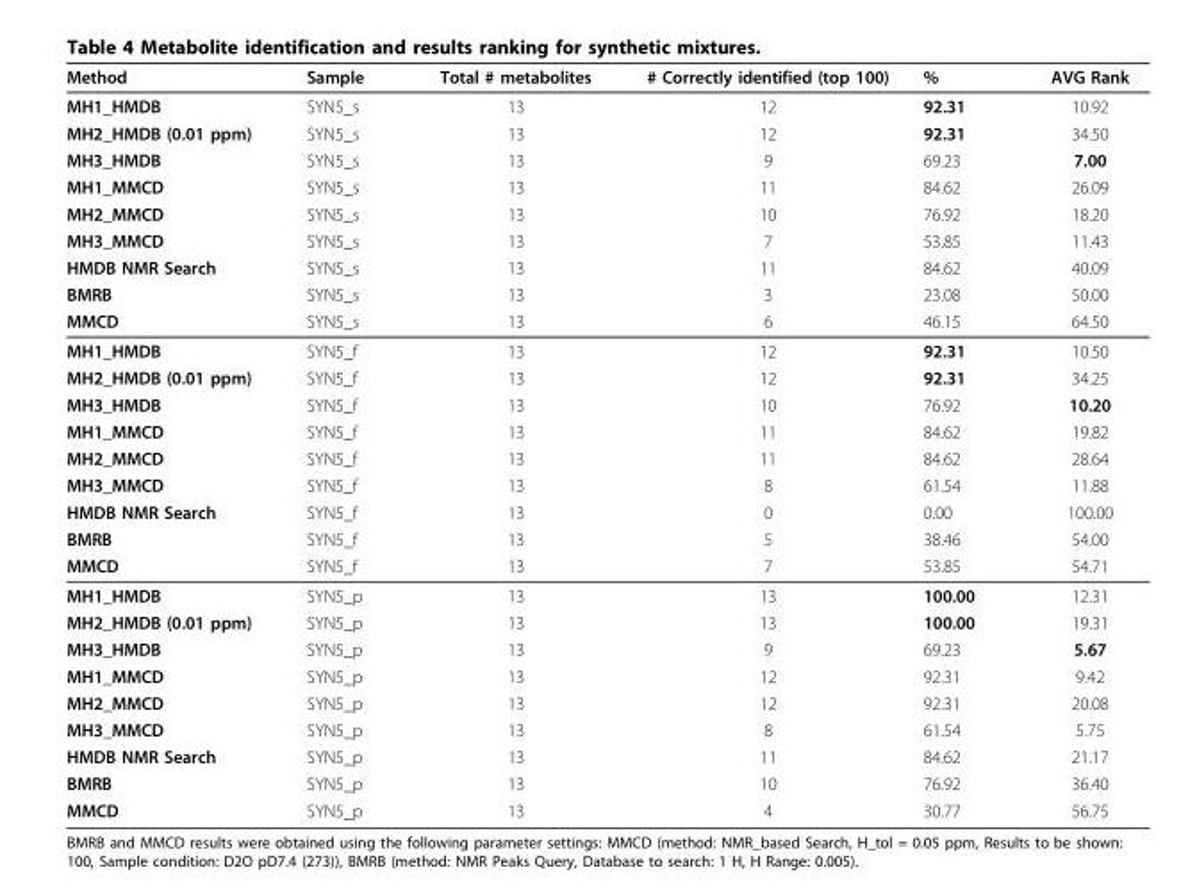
<table><thead><tr><td>Method</td><td>Sample</td><td>Total # metabolites</td><td># Correctly identified (top 100)</td><td>%</td><td>AVG Rank</td></tr></thead><tbody><tr><td>MH1_HMDB</td><td>SYN5_s</td><td>13</td><td>12</td><td>92.31</td><td>10.92</td></tr><tr><td>MH2_HMDB (0.01 ppm)</td><td>SYN5_s</td><td>13</td><td>12</td><td>92.31</td><td>34.50</td></tr><tr><td>MH3_HMDB</td><td>SYN5_s</td><td>13</td><td>9</td><td>69.23</td><td>7.00</td></tr><tr><td>MH1_MMCD</td><td>SYN5_s</td><td>13</td><td>11</td><td>84.62</td><td>26.09</td></tr><tr><td>MH2_MMCD</td><td>SYN5_s</td><td>13</td><td>10</td><td>76.92</td><td>18.20</td></tr><tr><td>MH3_MMCD</td><td>SYN5_s</td><td>13</td><td>7</td><td>53.85</td><td>11.43</td></tr><tr><td>HMDB NMR Search</td><td>SYN5_s</td><td>13</td><td>11</td><td>84.62</td><td>40.09</td></tr><tr><td>BMRB</td><td>SYN5_s</td><td>13</td><td>3</td><td>23.08</td><td>50.00</td></tr><tr><td>MMCD</td><td>SYN5_s</td><td>13</td><td>6</td><td>46.15</td><td>64.50</td></tr><tr><td>MH1_HMDB</td><td>SYN5_f</td><td>13</td><td>12</td><td>92.31</td><td>10.50</td></tr><tr><td>MH2_HMDB (0.01 ppm)</td><td>SYN5_f</td><td>13</td><td>12</td><td>92.31</td><td>34.25</td></tr><tr><td>MH3_HMDB</td><td>SYN5_f</td><td>13</td><td>10</td><td>76.92</td><td>10.20</td></tr><tr><td>MH1_MMCD</td><td>SYN5_f</td><td>13</td><td>11</td><td>84.62</td><td>19.82</td></tr><tr><td>MH2_MMCD</td><td>SYN5_f</td><td>13</td><td>11</td><td>84.62</td><td>28.64</td></tr><tr><td>MH3_MMCD</td><td>SYN5_f</td><td>13</td><td>8</td><td>61.54</td><td>11.88</td></tr><tr><td>HMDB NMR Search</td><td>SYN5_f</td><td>13</td><td>0</td><td>0.00</td><td>100.00</td></tr><tr><td>BMRB</td><td>SYN5_f</td><td>13</td><td>5</td><td>38.46</td><td>54.00</td></tr><tr><td>MMCD</td><td>SYN5_f</td><td>13</td><td>7</td><td>53.85</td><td>54.71</td></tr><tr><td>MH1_HMDB</td><td>SYN5_p</td><td>13</td><td>13</td><td>100.00</td><td>12.31</td></tr><tr><td>MH2_HMDB (0.01 ppm)</td><td>SYN5_p</td><td>13</td><td>13</td><td>100.00</td><td>19.31</td></tr><tr><td>MH3_HMDB</td><td>SYN5_p</td><td>13</td><td>9</td><td>69.23</td><td>5.67</td></tr><tr><td>MH1_MMCD</td><td>SYN5_p</td><td>13</td><td>12</td><td>92.31</td><td>9.42</td></tr><tr><td>MH2_MMCD</td><td>SYN5_p</td><td>13</td><td>12</td><td>92.31</td><td>20.08</td></tr><tr><td>MH3_MMCD</td><td>SYN5_p</td><td>13</td><td>8</td><td>61.54</td><td>5.75</td></tr><tr><td>HMDB NMR Search</td><td>SYN5_p</td><td>13</td><td>11</td><td>84.62</td><td>21.17</td></tr><tr><td>BMRB</td><td>SYN5_p</td><td>13</td><td>10</td><td>76.92</td><td>36.40</td></tr><tr><td>MMCD</td><td>SYN5_p</td><td>13</td><td>4</td><td>30.77</td><td>56.75</td></tr></tbody></table>